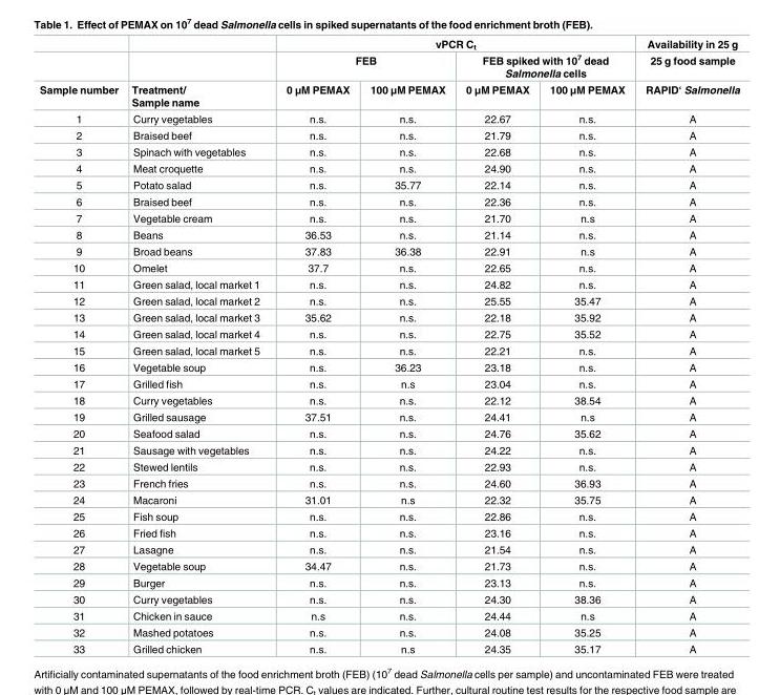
<table><thead><tr><td rowspan="3">Sample number</td><td rowspan="3">Treatment/ Sample name</td><td colspan="4">vPCR C<sub>t</sub></td><td rowspan="3">Availability in 25 g 25 g food sample RAPID‘ Salmonella</td></tr><tr><td colspan="2">FEB</td><td colspan="2">FEB spiked with 10<sup>7</sup> dead Salmonella cells</td></tr><tr><td>0 μM PEMAX</td><td>100 μM PEMAX</td><td>0 μM PEMAX</td><td>100 μM PEMAX</td></tr></thead><tbody><tr><td>1</td><td>Curry vegetables</td><td>n.s.</td><td>n.s.</td><td>22.67</td><td>n.s.</td><td>A</td></tr><tr><td>2</td><td>Braised beef</td><td>n.s.</td><td>n.s.</td><td>21.79</td><td>n.s.</td><td>A</td></tr><tr><td>3</td><td>Spinach with vegetables</td><td>n.s.</td><td>n.s.</td><td>22.68</td><td>n.s.</td><td>A</td></tr><tr><td>4</td><td>Meat croquette</td><td>n.s.</td><td>n.s.</td><td>24.90</td><td>n.s.</td><td>A</td></tr><tr><td>5</td><td>Potato salad</td><td>n.s.</td><td>35.77</td><td>22.14</td><td>n.s.</td><td>A</td></tr><tr><td>6</td><td>Braised beef</td><td>n.s.</td><td>n.s.</td><td>22.36</td><td>n.s.</td><td>A</td></tr><tr><td>7</td><td>Vegetable cream</td><td>n.s.</td><td>n.s.</td><td>21.70</td><td>n.s</td><td>A</td></tr><tr><td>8</td><td>Beans</td><td>36.53</td><td>n.s.</td><td>21.14</td><td>n.s.</td><td>A</td></tr><tr><td>9</td><td>Broad beans</td><td>37.83</td><td>36.38</td><td>22.91</td><td>n.s</td><td>A</td></tr><tr><td>10</td><td>Omelet</td><td>37.7</td><td>n.s.</td><td>22.65</td><td>n.s.</td><td>A</td></tr><tr><td>11</td><td>Green salad, local market 1</td><td>n.s.</td><td>n.s.</td><td>24.82</td><td>n.s.</td><td>A</td></tr><tr><td>12</td><td>Green salad, local market 2</td><td>n.s.</td><td>n.s.</td><td>25.55</td><td>35.47</td><td>A</td></tr><tr><td>13</td><td>Green salad, local market 3</td><td>35.62</td><td>n.s.</td><td>22.18</td><td>35.92</td><td>A</td></tr><tr><td>14</td><td>Green salad, local market 4</td><td>n.s.</td><td>n.s.</td><td>22.75</td><td>35.52</td><td>A</td></tr><tr><td>15</td><td>Green salad, local market 5</td><td>n.s.</td><td>n.s.</td><td>22.21</td><td>n.s.</td><td>A</td></tr><tr><td>16</td><td>Vegetable soup</td><td>n.s.</td><td>36.23</td><td>23.18</td><td>n.s.</td><td>A</td></tr><tr><td>17</td><td>Grilled fish</td><td>n.s.</td><td>n.s</td><td>23.04</td><td>n.s.</td><td>A</td></tr><tr><td>18</td><td>Curry vegetables</td><td>n.s.</td><td>n.s.</td><td>22.12</td><td>38.54</td><td>A</td></tr><tr><td>19</td><td>Grilled sausage</td><td>37.51</td><td>n.s.</td><td>24.41</td><td>n.s</td><td>A</td></tr><tr><td>20</td><td>Seafood salad</td><td>n.s.</td><td>n.s.</td><td>24.76</td><td>35.62</td><td>A</td></tr><tr><td>21</td><td>Sausage with vegetables</td><td>n.s.</td><td>n.s.</td><td>24.22</td><td>n.s.</td><td>A</td></tr><tr><td>22</td><td>Stewed lentils</td><td>n.s.</td><td>n.s.</td><td>22.93</td><td>n.s.</td><td>A</td></tr><tr><td>23</td><td>French fries</td><td>n.s.</td><td>n.s.</td><td>24.60</td><td>36.93</td><td>A</td></tr><tr><td>24</td><td>Macaroni</td><td>31.01</td><td>n.s</td><td>22.32</td><td>35.75</td><td>A</td></tr><tr><td>25</td><td>Fish soup</td><td>n.s.</td><td>n.s.</td><td>22.86</td><td>n.s.</td><td>A</td></tr><tr><td>26</td><td>Fried fish</td><td>n.s.</td><td>n.s.</td><td>23.16</td><td>n.s.</td><td>A</td></tr><tr><td>27</td><td>Lasagne</td><td>n.s.</td><td>n.s.</td><td>21.54</td><td>n.s.</td><td>A</td></tr><tr><td>28</td><td>Vegetable soup</td><td>34.47</td><td>n.s.</td><td>21.73</td><td>n.s.</td><td>A</td></tr><tr><td>29</td><td>Burger</td><td>n.s.</td><td>n.s.</td><td>23.13</td><td>n.s.</td><td>A</td></tr><tr><td>30</td><td>Curry vegetables</td><td>n.s.</td><td>n.s.</td><td>24.30</td><td>38.36</td><td>A</td></tr><tr><td>31</td><td>Chicken in sauce</td><td>n.s</td><td>n.s.</td><td>24.44</td><td>n.s</td><td>A</td></tr><tr><td>32</td><td>Mashed potatoes</td><td>n.s.</td><td>n.s.</td><td>24.08</td><td>35.25</td><td>A</td></tr><tr><td>33</td><td>Grilled chicken</td><td>n.s.</td><td>n.s</td><td>24.35</td><td>35.17</td><td>A</td></tr></tbody></table>